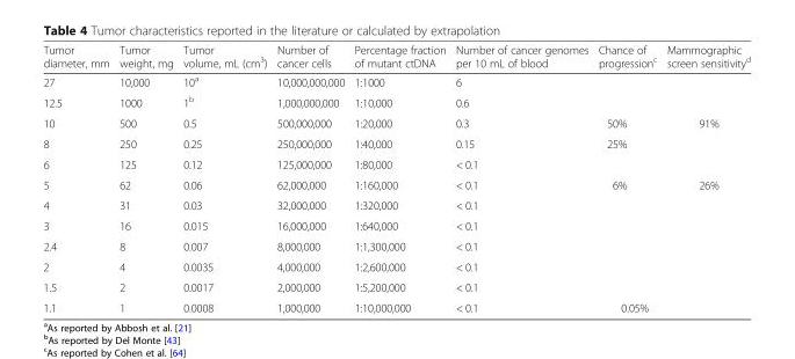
<table><thead><tr><td>Tumor diameter, mm</td><td>Tumor weight, mg</td><td>Tumor volume, mL (cm<sup>3</sup>)</td><td>Number of cancer cells</td><td>Percentage fraction of mutant ctDNA</td><td>Number of cancer genomes per 10 mL of blood</td><td>Chance of progression<sup>c</sup></td><td>Mammographic screen sensitivity<sup>d</sup></td></tr></thead><tbody><tr><td>27</td><td>10,000</td><td>10<sup>a</sup></td><td>10,000,000,000</td><td>1:1000</td><td>6</td><td></td><td></td></tr><tr><td>12.5</td><td>1000</td><td>1<sup>b</sup></td><td>1,000,000,000</td><td>1:10,000</td><td>0.6</td><td></td><td></td></tr><tr><td>10</td><td>500</td><td>0.5</td><td>500,000,000</td><td>1:20,000</td><td>0.3</td><td>50%</td><td>91%</td></tr><tr><td>8</td><td>250</td><td>0.25</td><td>250,000,000</td><td>1:40,000</td><td>0.15</td><td>25%</td><td></td></tr><tr><td>6</td><td>125</td><td>0.12</td><td>125,000,000</td><td>1:80,000</td><td>&lt; 0.1</td><td></td><td></td></tr><tr><td>5</td><td>62</td><td>0.06</td><td>62,000,000</td><td>1:160,000</td><td>&lt; 0.1</td><td>6%</td><td>26%</td></tr><tr><td>4</td><td>31</td><td>0.03</td><td>32,000,000</td><td>1:320,000</td><td>&lt; 0.1</td><td></td><td></td></tr><tr><td>3</td><td>16</td><td>0.015</td><td>16,000,000</td><td>1:640,000</td><td>&lt; 0.1</td><td></td><td></td></tr><tr><td>2.4</td><td>8</td><td>0.007</td><td>8,000,000</td><td>1:1,300,000</td><td>&lt; 0.1</td><td></td><td></td></tr><tr><td>2</td><td>4</td><td>0.0035</td><td>4,000,000</td><td>1:2,600,000</td><td>&lt; 0.1</td><td></td><td></td></tr><tr><td>1.5</td><td>2</td><td>0.0017</td><td>2,000,000</td><td>1:5,200,000</td><td>&lt; 0.1</td><td></td><td></td></tr><tr><td>1.1</td><td>1</td><td>0.0008</td><td>1,000,000</td><td>1:10,000,000</td><td>&lt; 0.1</td><td>0.05%</td><td></td></tr></tbody></table>